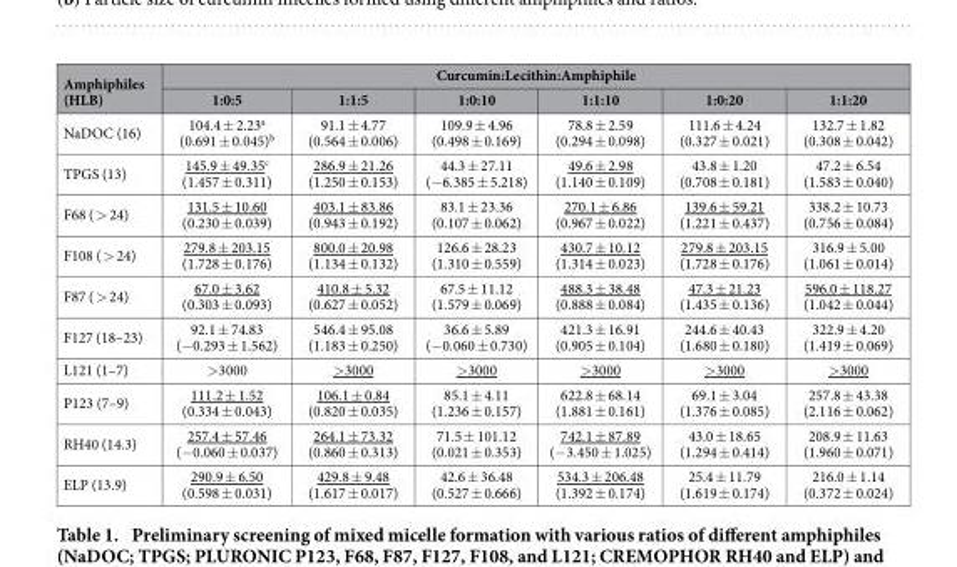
<table><thead><tr><td rowspan="2">Amphiphiles (HLB)</td><td colspan="6">Curcumin:Lecithin:Amphiphile</td></tr><tr><td>1:0:5</td><td>1:1:5</td><td>1:0:10</td><td>1:1:10</td><td>1:0:20</td><td>1:1:20</td></tr></thead><tbody><tr><td>NaDOC (16)</td><td>104.4 ± 2.23<sup>a</sup> (0.691 ± 0.045)<sup>b</sup></td><td>91.1 ± 4.77 (0.564 ± 0.006)</td><td>109.9 ± 4.96 (0.498 ± 0.169)</td><td>78.8 ± 2.59 (0.294 ± 0.098)</td><td>111.6 ± 4.24 (0.327 ± 0.021)</td><td>132.7 ± 1.82 (0.308 ± 0.042)</td></tr><tr><td>TPGS (13)</td><td>145.9 ± 49.35c (1.457 ± 0.311)</td><td>286.9 ± 21.26 (1.250 ± 0.153)</td><td>44.3 ± 27.11 (− 6.385 ± 5.218)</td><td>49.6 ± 2.98 (1.140 ± 0.109)</td><td>43.8 ± 1.20 (0.708 ± 0.181)</td><td>47.2 ± 6.54 (1.583 ± 0.040)</td></tr><tr><td>F68 ( &gt; 24)</td><td>131.5 ± 10.60 (0.230 ± 0.039)</td><td>403.1 ± 83.86 (0.943 ± 0.192)</td><td>83.1 ± 23.36 (0.107 ± 0.062)</td><td>270.1 ± 6.86 (0.967 ± 0.022)</td><td>139.6 ± 59.21 (1.221 ± 0.437)</td><td>338.2 ± 10.73 (0.756 ± 0.084)</td></tr><tr><td>F108 ( &gt; 24)</td><td>279.8 ± 203.15 (1.728 ± 0.176)</td><td>800.0 ± 20.98 (1.134 ± 0.132)</td><td>126.6 ± 28.23 (1.310 ± 0.559)</td><td>430.7 ± 10.12 (1.314 ± 0.023)</td><td>279.8 ± 203.15 (1.728 ± 0.176)</td><td>316.9 ± 5.00 (1.061 ± 0.014)</td></tr><tr><td>F87 ( &gt; 24)</td><td>67.0 ± 3.62 (0.303 ± 0.093)</td><td>410.8 ± 5.32 (0.627 ± 0.052)</td><td>67.5 ± 11.12 (1.579 ± 0.069)</td><td>488.3 ± 38.48 (0.888 ± 0.084)</td><td>47.3 ± 21.23 (1.435 ± 0.136)</td><td>596.0 ± 118.27 (1.042 ± 0.044)</td></tr><tr><td>F127 (18–23)</td><td>92.1 ± 74.83 (− 0.293 ± 1.562)</td><td>546.4 ± 95.08 (1.183 ± 0.250)</td><td>36.6 ± 5.89 (− 0.060 ± 0.730)</td><td>421.3 ± 16.91 (0.905 ± 0.104)</td><td>244.6 ± 40.43 (1.680 ± 0.180)</td><td>322.9 ± 4.20 (1.419 ± 0.069)</td></tr><tr><td>L121 (1–7)</td><td>&gt; 3000</td><td>&gt;3000</td><td>&gt;3000</td><td>&gt;3000</td><td>&gt;3000</td><td>&gt;3000</td></tr><tr><td>P123 (7–9)</td><td>111.2 ± 1.52 (0.334 ± 0.043)</td><td>106.1 ± 0.84 (0.820 ± 0.035)</td><td>85.1 ± 4.11 (1.236 ± 0.157)</td><td>622.8 ± 68.14 (1.881 ± 0.161)</td><td>69.1 ± 3.04 (1.376 ± 0.085)</td><td>257.8 ± 43.38 (2.116 ± 0.062)</td></tr><tr><td>RH40 (14.3)</td><td>257.4 ± 57.46 (− 0.060 ± 0.037)</td><td>264.1 ± 73.32 (0.860 ± 0.313)</td><td>71.5 ± 101.12 (0.021 ± 0.353)</td><td>742.1 ± 87.89 (− 3.450 ± 1.025)</td><td>43.0 ± 18.65 (1.294 ± 0.414)</td><td>208.9 ± 11.63 (1.960 ± 0.071)</td></tr><tr><td>ELP (13.9)</td><td>290.9 ± 6.50 (0.598 ± 0.031)</td><td>429.8 ± 9.48 (1.617 ± 0.017)</td><td>42.6 ± 36.48 (0.527 ± 0.666)</td><td>534.3 ± 206.48 (1.392 ± 0.174)</td><td>25.4 ± 11.79 (1.619 ± 0.174)</td><td>216.0 ± 1.14 (0.372 ± 0.024)</td></tr></tbody></table>